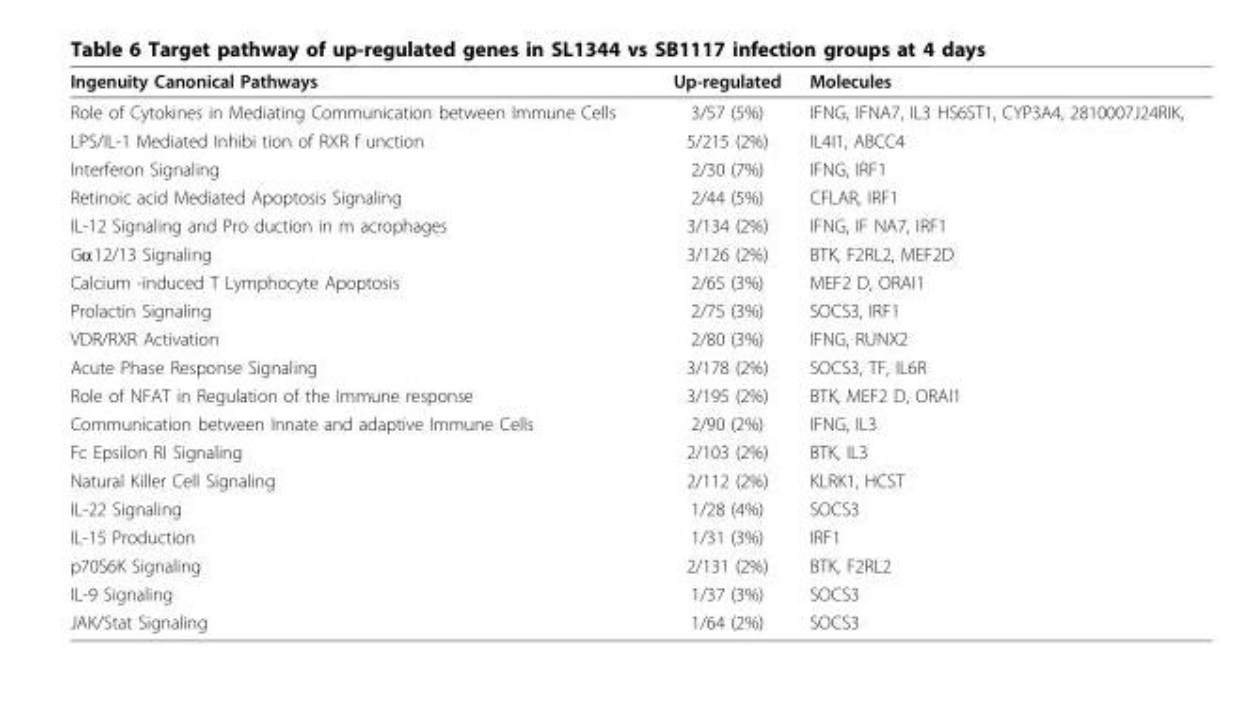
<table><thead><tr><td>Ingenuity Canonical Pathways</td><td>Up-regulated</td><td>Molecules</td></tr></thead><tbody><tr><td>Role of Cytokines in Mediating Communication between Immune Cells</td><td>3/57 (5%)</td><td>IFNG, IFNA7, IL3 HS6ST1, CYP3A4, 2810007J24RIK,</td></tr><tr><td>LPS/IL-1 Mediated Inhibi tion of RXR f unction</td><td>5/215 (2%)</td><td>IL4I1, ABCC4</td></tr><tr><td>Interferon Signaling</td><td>2/30 (7%)</td><td>IFNG, IRF1</td></tr><tr><td>Retinoic acid Mediated Apoptosis Signaling</td><td>2/44 (5%)</td><td>CFLAR, IRF1</td></tr><tr><td>IL-12 Signaling and Pro duction in m acrophages</td><td>3/134 (2%)</td><td>IFNG, IF NA7, IRF1</td></tr><tr><td>Gα12/13 Signaling</td><td>3/126 (2%)</td><td>BTK, F2RL2, MEF2D</td></tr><tr><td>Calcium -induced T Lymphocyte Apoptosis</td><td>2/65 (3%)</td><td>MEF2 D, ORAI1</td></tr><tr><td>Prolactin Signaling</td><td>2/75 (3%)</td><td>SOCS3, IRF1</td></tr><tr><td>VDR/RXR Activation</td><td>2/80 (3%)</td><td>IFNG, RUNX2</td></tr><tr><td>Acute Phase Response Signaling</td><td>3/178 (2%)</td><td>SOCS3, TF, IL6R</td></tr><tr><td>Role of NFAT in Regulation of the Immune response</td><td>3/195 (2%)</td><td>BTK, MEF2 D, ORAI1</td></tr><tr><td>Communication between Innate and adaptive Immune Cells</td><td>2/90 (2%)</td><td>IFNG, IL3</td></tr><tr><td>Fc Epsilon RI Signaling</td><td>2/103 (2%)</td><td>BTK, IL3</td></tr><tr><td>Natural Killer Cell Signaling</td><td>2/112 (2%)</td><td>KLRK1, HCST</td></tr><tr><td>IL-22 Signaling</td><td>1/28 (4%)</td><td>SOCS3</td></tr><tr><td>IL-15 Production</td><td>1/31 (3%)</td><td>IRF1</td></tr><tr><td>p70S6K Signaling</td><td>2/131 (2%)</td><td>BTK, F2RL2</td></tr><tr><td>IL-9 Signaling</td><td>1/37 (3%)</td><td>SOCS3</td></tr><tr><td>JAK/Stat Signaling</td><td>1/64 (2%)</td><td>SOCS3</td></tr></tbody></table>